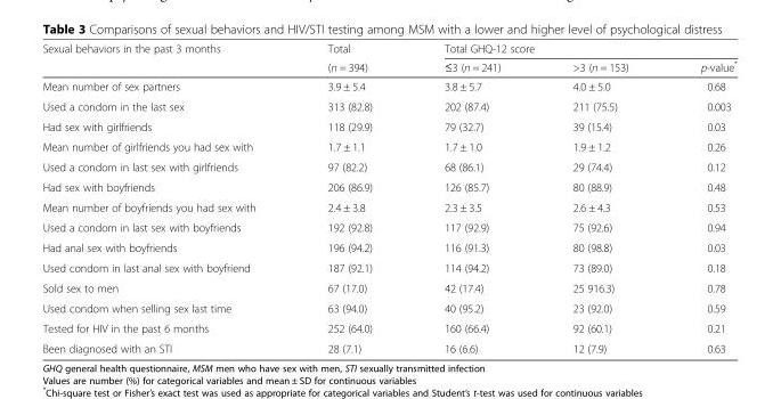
<table><thead><tr><td rowspan="2">Sexual behaviors in the past 3 months</td><td rowspan="2">Total (n = 394)</td><td colspan="3">Total GHQ-12 score</td></tr><tr><td>≤3 (n = 241)</td><td>&gt;3 (n = 153)</td><td>p-value*</td></tr></thead><tbody><tr><td>Mean number of sex partners</td><td>3.9 ± 5.4</td><td>3.8 ± 5.7</td><td>4.0 ± 5.0</td><td>0.68</td></tr><tr><td>Used a condom in the last sex</td><td>313 (82.8)</td><td>202 (87.4)</td><td>211 (75.5)</td><td>0.003</td></tr><tr><td>Had sex with girlfriends</td><td>118 (29.9)</td><td>79 (32.7)</td><td>39 (15.4)</td><td>0.03</td></tr><tr><td>Mean number of girlfriends you had sex with</td><td>1.7 ± 1.1</td><td>1.7 ± 1.0</td><td>1.9 ± 1.2</td><td>0.26</td></tr><tr><td>Used a condom in last sex with girlfriends</td><td>97 (82.2)</td><td>68 (86.1)</td><td>29 (74.4)</td><td>0.12</td></tr><tr><td>Had sex with boyfriends</td><td>206 (86.9)</td><td>126 (85.7)</td><td>80 (88.9)</td><td>0.48</td></tr><tr><td>Mean number of boyfriends you had sex with</td><td>2.4 ± 3.8</td><td>2.3 ± 3.5</td><td>2.6 ± 4.3</td><td>0.53</td></tr><tr><td>Used a condom in last sex with boyfriends</td><td>192 (92.8)</td><td>117 (92.9)</td><td>75 (92.6)</td><td>0.94</td></tr><tr><td>Had anal sex with boyfriends</td><td>196 (94.2)</td><td>116 (91.3)</td><td>80 (98.8)</td><td>0.03</td></tr><tr><td>Used condom in last anal sex with boyfriend</td><td>187 (92.1)</td><td>114 (94.2)</td><td>73 (89.0)</td><td>0.18</td></tr><tr><td>Sold sex to men</td><td>67 (17.0)</td><td>42 (17.4)</td><td>25 916.3)</td><td>0.78</td></tr><tr><td>Used condom when selling sex last time</td><td>63 (94.0)</td><td>40 (95.2)</td><td>23 (92.0)</td><td>0.59</td></tr><tr><td>Tested for HIV in the past 6 months</td><td>252 (64.0)</td><td>160 (66.4)</td><td>92 (60.1)</td><td>0.21</td></tr><tr><td>Been diagnosed with an STI</td><td>28 (7.1)</td><td>16 (6.6)</td><td>12 (7.9)</td><td>0.63</td></tr></tbody></table>